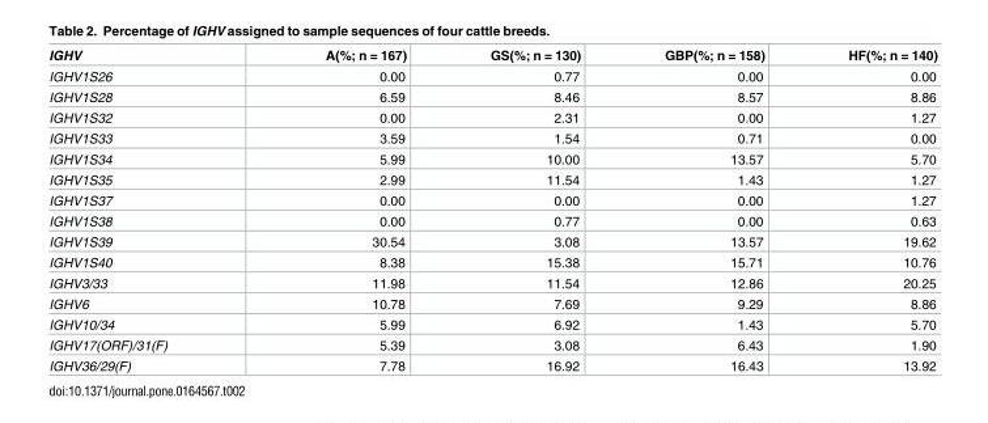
<table><thead><tr><td>IGHV</td><td>A(%; n = 167)</td><td>GS(%; n = 130)</td><td>GBP(%; n = 158)</td><td>HF(%; n = 140)</td></tr></thead><tbody><tr><td>IGHV1S26</td><td>0.00</td><td>0.77</td><td>0.00</td><td>0.00</td></tr><tr><td>IGHV1S28</td><td>6.59</td><td>8.46</td><td>8.57</td><td>8.86</td></tr><tr><td>IGHV1S32</td><td>0.00</td><td>2.31</td><td>0.00</td><td>1.27</td></tr><tr><td>IGHV1S33</td><td>3.59</td><td>1.54</td><td>0.71</td><td>0.00</td></tr><tr><td>IGHV1S34</td><td>5.99</td><td>10.00</td><td>13.57</td><td>5.70</td></tr><tr><td>IGHV1S35</td><td>2.99</td><td>11.54</td><td>1.43</td><td>1.27</td></tr><tr><td>IGHV1S37</td><td>0.00</td><td>0.00</td><td>0.00</td><td>1.27</td></tr><tr><td>IGHV1S38</td><td>0.00</td><td>0.77</td><td>0.00</td><td>0.63</td></tr><tr><td>IGHV1S39</td><td>30.54</td><td>3.08</td><td>13.57</td><td>19.62</td></tr><tr><td>IGHV1S40</td><td>8.38</td><td>15.38</td><td>15.71</td><td>10.76</td></tr><tr><td>IGHV3/33</td><td>11.98</td><td>11.54</td><td>12.86</td><td>20.25</td></tr><tr><td>IGHV6</td><td>10.78</td><td>7.69</td><td>9.29</td><td>8.86</td></tr><tr><td>IGHV10/34</td><td>5.99</td><td>6.92</td><td>1.43</td><td>5.70</td></tr><tr><td>IGHV17(ORF)/31(F)</td><td>5.39</td><td>3.08</td><td>6.43</td><td>1.90</td></tr><tr><td>IGHV36/29(F)</td><td>7.78</td><td>16.92</td><td>16.43</td><td>13.92</td></tr></tbody></table>